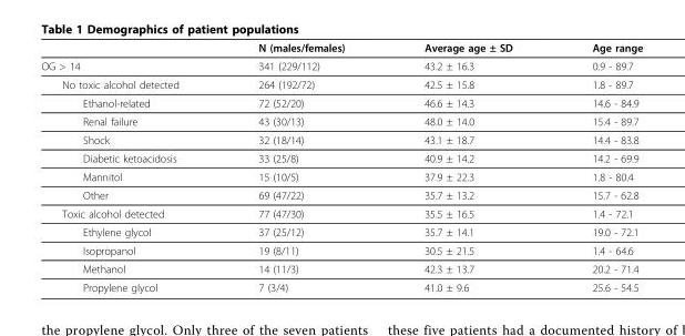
<table><thead><tr><td></td><td>N (males/females)</td><td>Average age ± SD</td><td>Age range</td></tr></thead><tbody><tr><td>OG &gt; 14</td><td>341 (229/112)</td><td>43.2 ± 16.3</td><td>0.9 - 89.7</td></tr><tr><td>No toxic alcohol detected</td><td>264 (192/72)</td><td>42.5 ± 15.8</td><td>1.8 - 89.7</td></tr><tr><td>Ethanol-related</td><td>72 (52/20)</td><td>46.6 ± 14.3</td><td>14.6 - 84.9</td></tr><tr><td>Renal failure</td><td>43 (30/13)</td><td>48.0 ± 14.0</td><td>15.4 - 89.7</td></tr><tr><td>Shock</td><td>32 (18/14)</td><td>43.1 ± 18.7</td><td>14.4 - 83.8</td></tr><tr><td>Diabetic ketoacidosis</td><td>33 (25/8)</td><td>40.9 ± 14.2</td><td>14.2 - 69.9</td></tr><tr><td>Mannitol</td><td>15 (10/5)</td><td>37.9 ± 22.3</td><td>1.8 - 80.4</td></tr><tr><td>Other</td><td>69 (47/22)</td><td>35.7 ± 13.2</td><td>15.7 - 62.8</td></tr><tr><td>Toxic alcohol detected</td><td>77 (47/30)</td><td>35.5 ± 16.5</td><td>1.4 - 72.1</td></tr><tr><td>Ethylene glycol</td><td>37 (25/12)</td><td>35.7 ± 14.1</td><td>19.0 - 72.1</td></tr><tr><td>Isopropanol</td><td>19 (8/11)</td><td>30.5 ± 21.5</td><td>1.4 - 64.6</td></tr><tr><td>Methanol</td><td>14 (11/3)</td><td>42.3 ± 13.7</td><td>20.2 - 71.4</td></tr><tr><td>Propylene glycol</td><td>7 (3/4)</td><td>41.0 ± 9.6</td><td>25.6 - 54.5</td></tr></tbody></table>